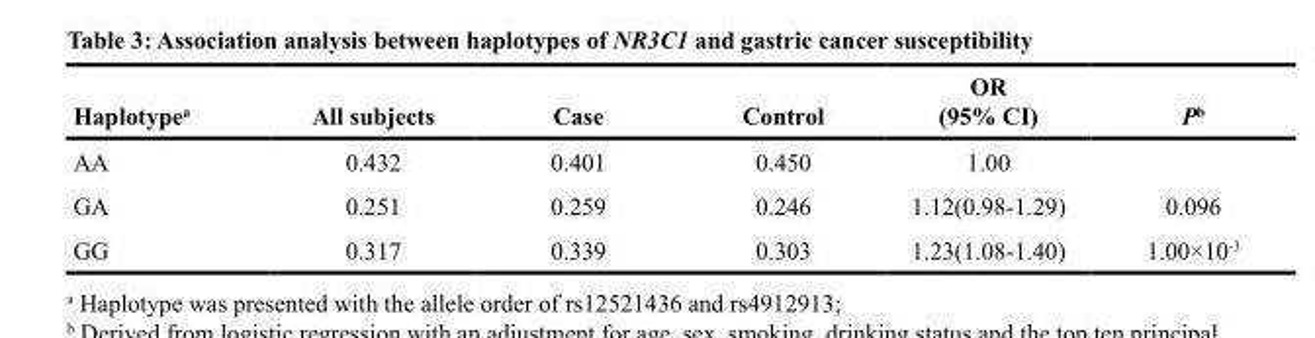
<table><thead><tr><td>Haplotype<sup>a</sup></td><td>All subjects</td><td>Case</td><td>Control</td><td>OR (95% CI)</td><td>P<sup>b</sup></td></tr></thead><tbody><tr><td>AA</td><td>0.432</td><td>0.401</td><td>0.450</td><td>1.00</td><td></td></tr><tr><td>GA</td><td>0.251</td><td>0.259</td><td>0.246</td><td>1.12(0.98-1.29)</td><td>0.096</td></tr><tr><td>GG</td><td>0.317</td><td>0.339</td><td>0.303</td><td>1.23(1.08-1.40)</td><td>1.00×10<sup>-3</sup></td></tr></tbody></table>